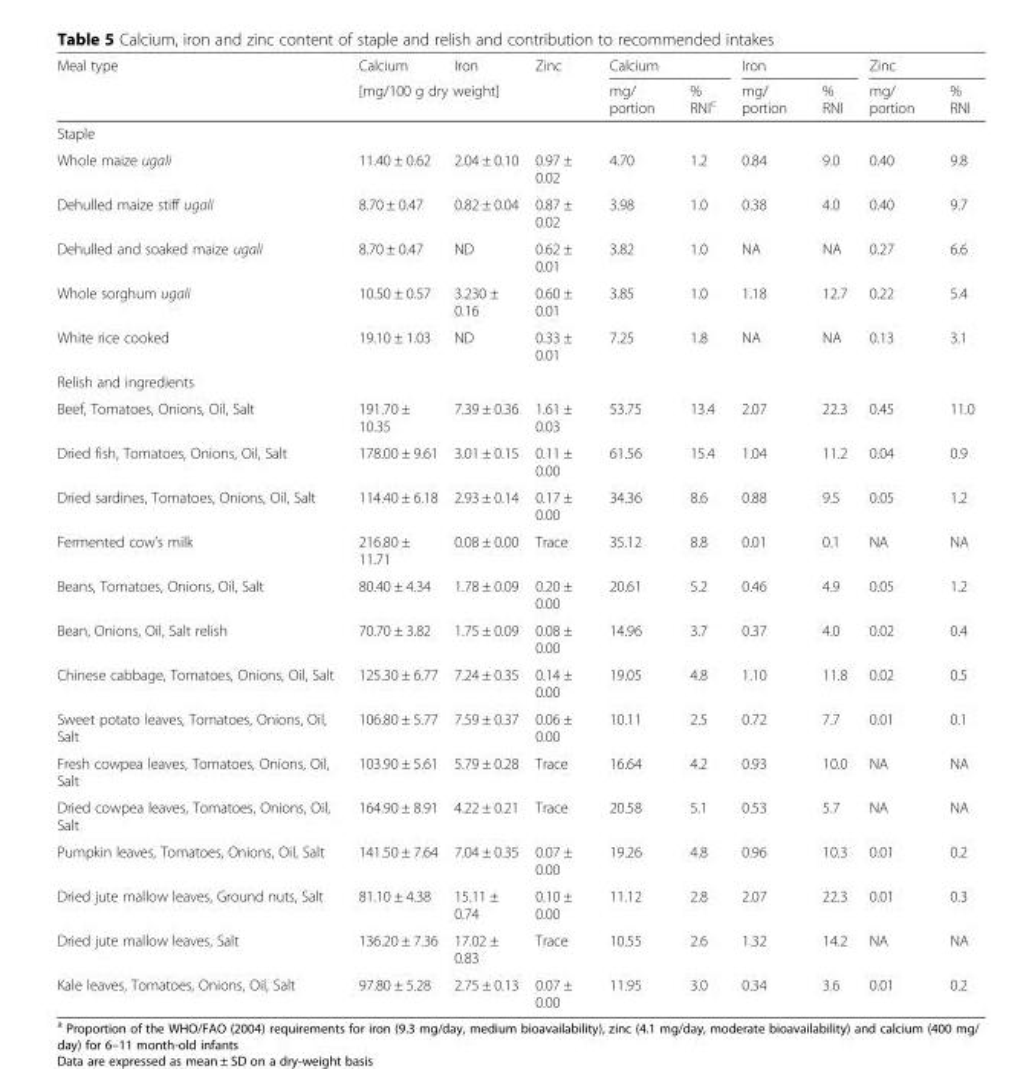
<table><thead><tr><td rowspan="2">Meal type</td><td>Calcium</td><td>Iron</td><td>Zinc</td><td colspan="2">Calcium</td><td colspan="2">Iron</td><td colspan="2">Zinc</td></tr><tr><td colspan="3">[mg/100 g dry weight]</td><td>mg/ portion</td><td>% RNI<sup>c</sup></td><td>mg/ portion</td><td>% RNI</td><td>mg/ portion</td><td>% RNI</td></tr></thead><tbody><tr><td colspan="10">Staple</td></tr><tr><td>Whole maize ugali</td><td>11.40 ± 0.62</td><td>2.04 ± 0.10</td><td>0.97 ± 0.02</td><td>4.70</td><td>1.2</td><td>0.84</td><td>9.0</td><td>0.40</td><td>9.8</td></tr><tr><td>Dehulled maize stiff ugali</td><td>8.70 ± 0.47</td><td>0.82 ± 0.04</td><td>0.87 ± 0.02</td><td>3.98</td><td>1.0</td><td>0.38</td><td>4.0</td><td>0.40</td><td>9.7</td></tr><tr><td>Dehulled and soaked maize ugali</td><td>8.70 ± 0.47</td><td>ND</td><td>0.62 ± 0.01</td><td>3.82</td><td>1.0</td><td>NA</td><td>NA</td><td>0.27</td><td>6.6</td></tr><tr><td>Whole sorghum ugali</td><td>10.50 ± 0.57</td><td>3.230 ± 0.16</td><td>0.60 ± 0.01</td><td>3.85</td><td>1.0</td><td>1.18</td><td>12.7</td><td>0.22</td><td>5.4</td></tr><tr><td>White rice cooked</td><td>19.10 ± 1.03</td><td>ND</td><td>0.33 ± 0.01</td><td>7.25</td><td>1.8</td><td>NA</td><td>NA</td><td>0.13</td><td>3.1</td></tr><tr><td colspan="10">Relish and ingredients</td></tr><tr><td>Beef, Tomatoes, Onions, Oil, Salt</td><td>191.70 ± 10.35</td><td>7.39 ± 0.36</td><td>1.61 ± 0.03</td><td>53.75</td><td>13.4</td><td>2.07</td><td>22.3</td><td>0.45</td><td>11.0</td></tr><tr><td>Dried fish, Tomatoes, Onions, Oil, Salt</td><td>178.00 ± 9.61</td><td>3.01 ± 0.15</td><td>0.11 ± 0.00</td><td>61.56</td><td>15.4</td><td>1.04</td><td>11.2</td><td>0.04</td><td>0.9</td></tr><tr><td>Dried sardines, Tomatoes, Onions, Oil, Salt</td><td>114.40 ± 6.18</td><td>2.93 ± 0.14</td><td>0.17 ± 0.00</td><td>34.36</td><td>8.6</td><td>0.88</td><td>9.5</td><td>0.05</td><td>1.2</td></tr><tr><td>Fermented cow’s milk</td><td>216.80 ± 11.71</td><td>0.08 ± 0.00</td><td>Trace</td><td>35.12</td><td>8.8</td><td>0.01</td><td>0.1</td><td>NA</td><td>NA</td></tr><tr><td>Beans, Tomatoes, Onions, Oil, Salt</td><td>80.40 ± 4.34</td><td>1.78 ± 0.09</td><td>0.20 ± 0.00</td><td>20.61</td><td>5.2</td><td>0.46</td><td>4.9</td><td>0.05</td><td>1.2</td></tr><tr><td>Bean, Onions, Oil, Salt relish</td><td>70.70 ± 3.82</td><td>1.75 ± 0.09</td><td>0.08 ± 0.00</td><td>14.96</td><td>3.7</td><td>0.37</td><td>4.0</td><td>0.02</td><td>0.4</td></tr><tr><td>Chinese cabbage, Tomatoes, Onions, Oil, Salt</td><td>125.30 ± 6.77</td><td>7.24 ± 0.35</td><td>0.14 ± 0.00</td><td>19.05</td><td>4.8</td><td>1.10</td><td>11.8</td><td>0.02</td><td>0.5</td></tr><tr><td>Sweet potato leaves, Tomatoes, Onions, Oil, Salt</td><td>106.80 ± 5.77</td><td>7.59 ± 0.37</td><td>0.06 ± 0.00</td><td>10.11</td><td>2.5</td><td>0.72</td><td>7.7</td><td>0.01</td><td>0.1</td></tr><tr><td>Fresh cowpea leaves, Tomatoes, Onions, Oil, Salt</td><td>103.90 ± 5.61</td><td>5.79 ± 0.28</td><td>Trace</td><td>16.64</td><td>4.2</td><td>0.93</td><td>10.0</td><td>NA</td><td>NA</td></tr><tr><td>Dried cowpea leaves, Tomatoes, Onions, Oil, Salt</td><td>164.90 ± 8.91</td><td>4.22 ± 0.21</td><td>Trace</td><td>20.58</td><td>5.1</td><td>0.53</td><td>5.7</td><td>NA</td><td>NA</td></tr><tr><td>Pumpkin leaves, Tomatoes, Onions, Oil, Salt</td><td>141.50 ± 7.64</td><td>7.04 ± 0.35</td><td>0.07 ± 0.00</td><td>19.26</td><td>4.8</td><td>0.96</td><td>10.3</td><td>0.01</td><td>0.2</td></tr><tr><td>Dried jute mallow leaves, Ground nuts, Salt</td><td>81.10 ± 4.38</td><td>15.11 ± 0.74</td><td>0.10 ± 0.00</td><td>11.12</td><td>2.8</td><td>2.07</td><td>22.3</td><td>0.01</td><td>0.3</td></tr><tr><td>Dried jute mallow leaves, Salt</td><td>136.20 ± 7.36</td><td>17.02 ± 0.83</td><td>Trace</td><td>10.55</td><td>2.6</td><td>1.32</td><td>14.2</td><td>NA</td><td>NA</td></tr><tr><td>Kale leaves, Tomatoes, Onions, Oil, Salt</td><td>97.80 ± 5.28</td><td>2.75 ± 0.13</td><td>0.07 ± 0.00</td><td>11.95</td><td>3.0</td><td>0.34</td><td>3.6</td><td>0.01</td><td>0.2</td></tr></tbody></table>